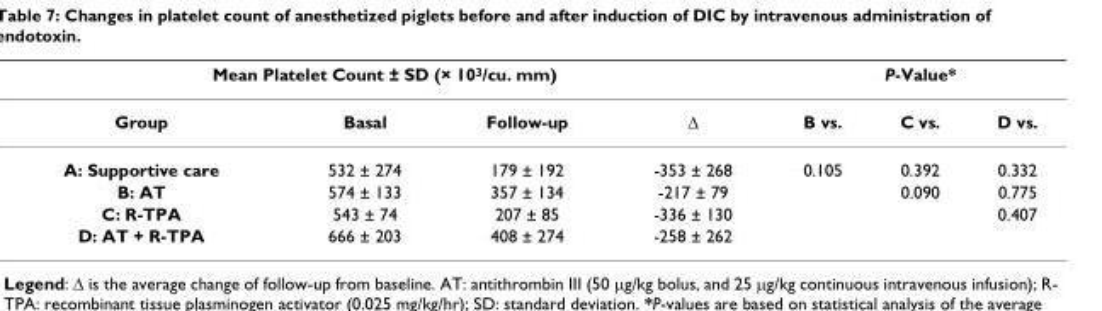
<table><thead><tr><td colspan="4">Mean Platelet Count ± SD (× 103/cu. mm)</td><td colspan="3">P-Value*</td></tr><tr><td>Group</td><td>Basal</td><td>Follow-up</td><td>Δ</td><td>B vs.</td><td>C vs.</td><td>D vs.</td></tr></thead><tbody><tr><td>A: Supportive care</td><td>532 ± 274</td><td>179 ± 192</td><td>-353 ± 268</td><td>0.105</td><td>0.392</td><td>0.332</td></tr><tr><td>B: AT</td><td>574 ± 133</td><td>357 ± 134</td><td>-217 ± 79</td><td></td><td>0.090</td><td>0.775</td></tr><tr><td>C: R-TPA</td><td>543 ± 74</td><td>207 ± 85</td><td>-336 ± 130</td><td></td><td></td><td>0.407</td></tr><tr><td>D: AT + R-TPA</td><td>666 ± 203</td><td>408 ± 274</td><td>-258 ± 262</td><td></td><td></td><td></td></tr></tbody></table>